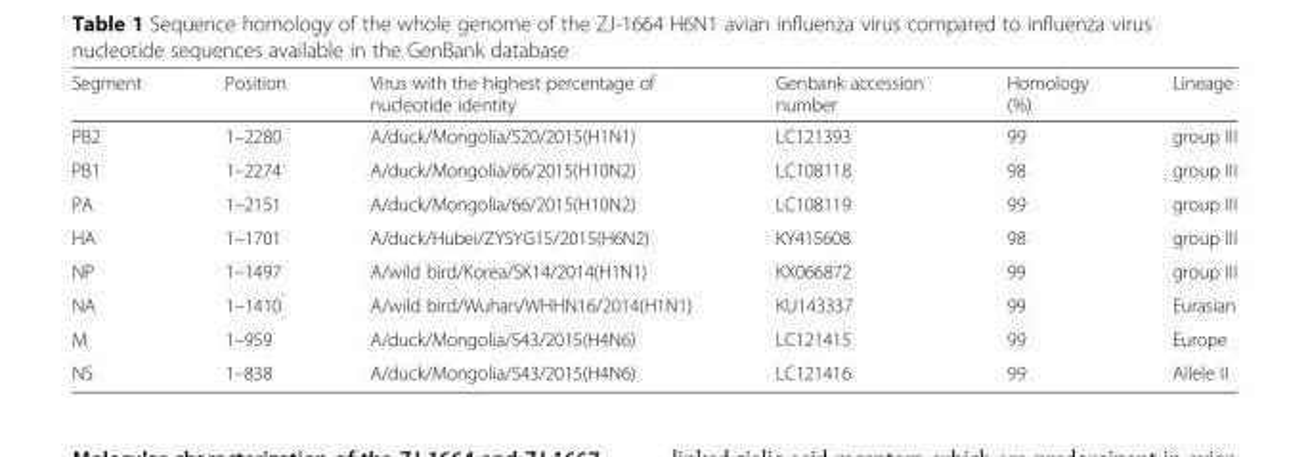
<table><thead><tr><td>Segment</td><td>Position</td><td>Virus with the highest percentage of nucleotide identity</td><td>Genbank accession number</td><td>Homology (%)</td><td>Lineage</td></tr></thead><tbody><tr><td>PB2</td><td>1–2280</td><td>A/duck/Mongolia/520/2015(H1N1)</td><td>LC121393</td><td>99</td><td>group III</td></tr><tr><td>PB1</td><td>1–2274</td><td>A/duck/Mongolia/66/2015(H10N2)</td><td>LC108118</td><td>98</td><td>group III</td></tr><tr><td>PA</td><td>1–2151</td><td>A/duck/Mongolia/66/2015(H10N2)</td><td>LC108119</td><td>99</td><td>group III</td></tr><tr><td>HA</td><td>1–1701</td><td>A/duck/Hubei/ZYSYG15/2015(H6N2)</td><td>KY415608</td><td>98</td><td>group III</td></tr><tr><td>NP</td><td>1–1497</td><td>A/wild bird/Korea/SK14/2014(H1N1)</td><td>KX066872</td><td>99</td><td>group III</td></tr><tr><td>NA</td><td>1–1410</td><td>A/wild bird/Wuhan/WHHN16/2014(H1N1)</td><td>KU143337</td><td>99</td><td>Eurasian</td></tr><tr><td>M</td><td>1–959</td><td>A/duck/Mongolia/543/2015(H4N6)</td><td>LC121415</td><td>99</td><td>Europe</td></tr><tr><td>NS</td><td>1–838</td><td>A/duck/Mongolia/543/2015(H4N6)</td><td>LC121416</td><td>99</td><td>Allele II</td></tr></tbody></table>